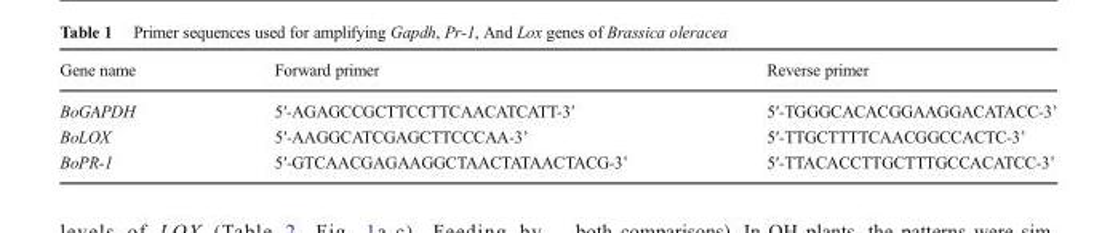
<table><thead><tr><td>Gene name</td><td>Forward primer</td><td>Reverse primer</td></tr></thead><tbody><tr><td>BoGAPDH</td><td>5′-AGAGCCGCTTCCTTCAACATCATT-3’</td><td>5′-TGGGCACACGGAAGGACATACC-3’</td></tr><tr><td>BoLOX</td><td>5′-AAGGCATCGAGCTTCCCAA-3’</td><td>5′-TTGCTTTTCAACGGCCACTC-3’</td></tr><tr><td>BoPR-1</td><td>5′-GTCAACGAGAAGGCTAACTATAACTACG-3’</td><td>5′-TTACACCTTGCTTTGCCACATCC-3’</td></tr></tbody></table>